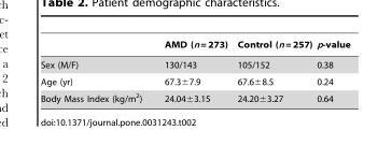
<table><thead><tr><td></td><td>AMD (n = 273)</td><td>Control (n = 257)</td><td>p-value</td></tr></thead><tbody><tr><td>Sex (M/F)</td><td>130/143</td><td>105/152</td><td>0.38</td></tr><tr><td>Age (yr)</td><td>67.3±7.9</td><td>67.6±8.5</td><td>0.24</td></tr><tr><td>Body Mass Index (kg/m<sup>2</sup>)</td><td>24.04±3.15</td><td>24.20±3.27</td><td>0.64</td></tr></tbody></table>